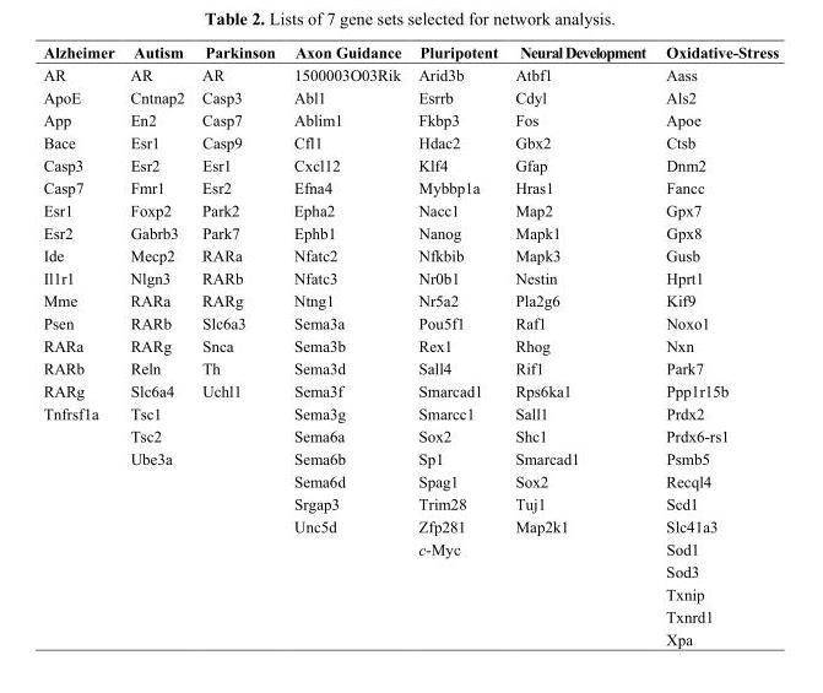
<table><thead><tr><td>Alzheimer</td><td>Autism</td><td>Parkinson</td><td>Axon Guidance</td><td>Pluripotent</td><td>Neural Development</td><td>Oxidative-Stress</td></tr></thead><tbody><tr><td>AR</td><td>AR</td><td>AR</td><td>1500003O03Rik</td><td>Arid3b</td><td>Atbf1</td><td>Aass</td></tr><tr><td>ApoE</td><td>Cntnap2</td><td>Casp3</td><td>Abl1</td><td>Esrrb</td><td>Cdyl</td><td>Als2</td></tr><tr><td>App</td><td>En2</td><td>Casp7</td><td>Ablim1</td><td>Fkbp3</td><td>Fos</td><td>Apoe</td></tr><tr><td>Bace</td><td>Esr1</td><td>Casp9</td><td>Cfl1</td><td>Hdac2</td><td>Gbx2</td><td>Ctsb</td></tr><tr><td>Casp3</td><td>Esr2</td><td>Esr1</td><td>Cxcl12</td><td>Klf4</td><td>Gfap</td><td>Dnm2</td></tr><tr><td>Casp7</td><td>Fmr1</td><td>Esr2</td><td>Efna4</td><td>Mybbp1a</td><td>Hras1</td><td>Fancc</td></tr><tr><td>Esr1</td><td>Foxp2</td><td>Park2</td><td>Epha2</td><td>Nacc1</td><td>Map2</td><td>Gpx7</td></tr><tr><td>Esr2</td><td>Gabrb3</td><td>Park7</td><td>Ephb1</td><td>Nanog</td><td>Mapk1</td><td>Gpx8</td></tr><tr><td>Ide</td><td>Mecp2</td><td>RARa</td><td>Nfatc2</td><td>Nfkbib</td><td>Mapk3</td><td>Gusb</td></tr><tr><td>Il1r1</td><td>Nlgn3</td><td>RARb</td><td>Nfatc3</td><td>Nr0b1</td><td>Nestin</td><td>Hprt1</td></tr><tr><td>Mme</td><td>RARa</td><td>RARg</td><td>Ntng1</td><td>Nr5a2</td><td>Pla2g6</td><td>Kif9</td></tr><tr><td>Psen</td><td>RARb</td><td>Slc6a3</td><td>Sema3a</td><td>Pou5f1</td><td>Raf1</td><td>Noxo1</td></tr><tr><td>RARa</td><td>RARg</td><td>Snca</td><td>Sema3b</td><td>Rex1</td><td>Rhog</td><td>Nxn</td></tr><tr><td>RARb</td><td>Reln</td><td>Th</td><td>Sema3d</td><td>Sall4</td><td>Rif1</td><td>Park7</td></tr><tr><td>RARg</td><td>Slc6a4</td><td>Uchl1</td><td>Sema3f</td><td>Smarcad1</td><td>Rps6ka1</td><td>Ppp1r15b</td></tr><tr><td rowspan="11">Tnfrsf1a</td><td>Tsc1</td><td></td><td>Sema3g</td><td>Smarcc1</td><td>Sall1</td><td>Prdx2</td></tr><tr><td>Tsc2</td><td></td><td>Sema6a</td><td>Sox2</td><td>Shc1</td><td>Prdx6-rs1</td></tr><tr><td>Ube3a</td><td></td><td>Sema6b</td><td>Sp1</td><td>Smarcad1</td><td>Psmb5</td></tr><tr><td></td><td></td><td>Sema6d</td><td>Spag1</td><td>Sox2</td><td>Recql4</td></tr><tr><td></td><td></td><td>Srgap3</td><td>Trim28</td><td>Tuj1</td><td>Scd1</td></tr><tr><td></td><td></td><td>Unc5d</td><td>Zfp281</td><td>Map2k1</td><td>Slc41a3</td></tr><tr><td></td><td></td><td></td><td>c-Myc</td><td></td><td>Sod1</td></tr><tr><td></td><td></td><td></td><td></td><td></td><td>Sod3</td></tr><tr><td></td><td></td><td></td><td></td><td></td><td>Txnip</td></tr><tr><td></td><td></td><td></td><td></td><td></td><td>Txnrd1</td></tr><tr><td></td><td></td><td></td><td></td><td></td><td>Xpa</td></tr></tbody></table>